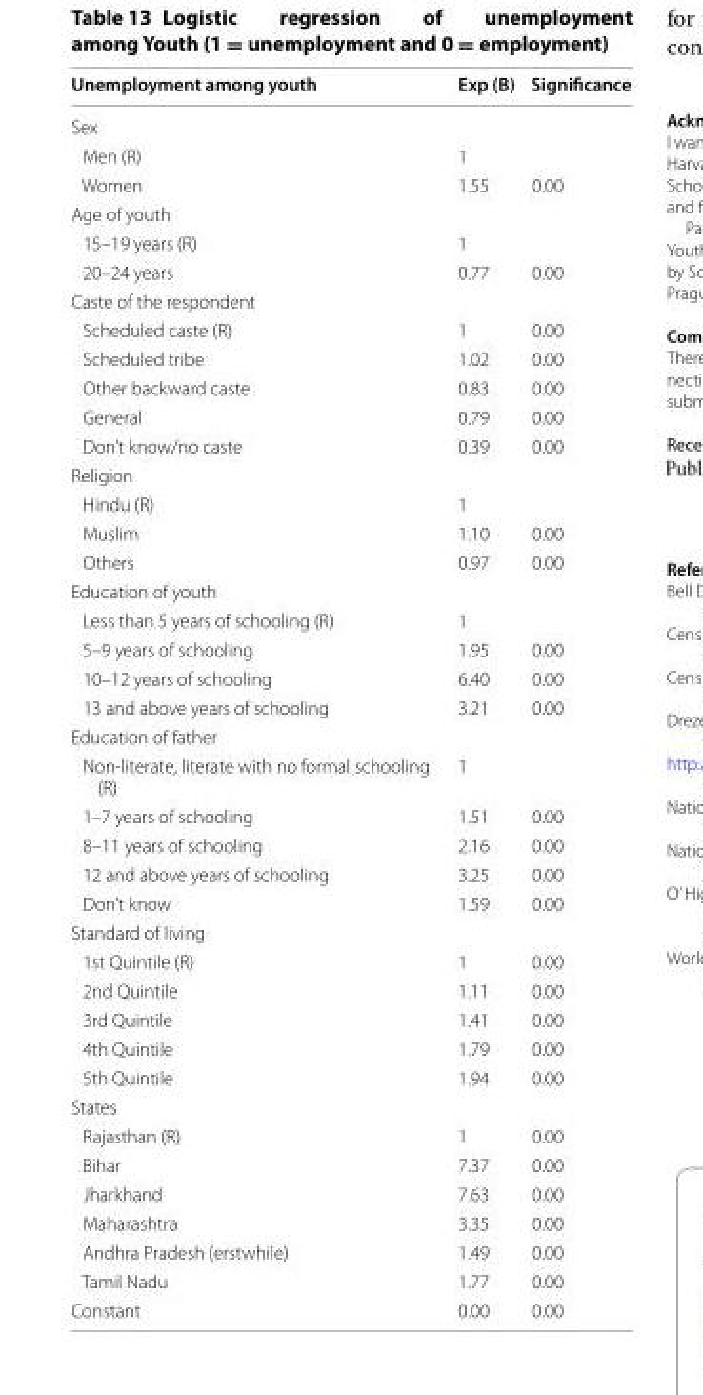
<table><thead><tr><td>Unemployment among youth</td><td>Exp (B)</td><td>Significance</td></tr></thead><tbody><tr><td colspan="3">Sex</td></tr><tr><td>Men (R)</td><td>1</td><td></td></tr><tr><td>Women</td><td>1.55</td><td>0.00</td></tr><tr><td colspan="3">Age of youth</td></tr><tr><td>15–19 years (R)</td><td>1</td><td></td></tr><tr><td>20–24 years</td><td>0.77</td><td>0.00</td></tr><tr><td colspan="3">Caste of the respondent</td></tr><tr><td>Scheduled caste (R)</td><td>1</td><td>0.00</td></tr><tr><td>Scheduled tribe</td><td>1.02</td><td>0.00</td></tr><tr><td>Other backward caste</td><td>0.83</td><td>0.00</td></tr><tr><td>General</td><td>0.79</td><td>0.00</td></tr><tr><td>Don’t know/no caste</td><td>0.39</td><td>0.00</td></tr><tr><td colspan="3">Religion</td></tr><tr><td>Hindu (R)</td><td>1</td><td></td></tr><tr><td>Muslim</td><td>1.10</td><td>0.00</td></tr><tr><td>Others</td><td>0.97</td><td>0.00</td></tr><tr><td colspan="3">Education of youth</td></tr><tr><td>Less than 5 years of schooling (R)</td><td>1</td><td></td></tr><tr><td>5–9 years of schooling</td><td>1.95</td><td>0.00</td></tr><tr><td>10–12 years of schooling</td><td>6.40</td><td>0.00</td></tr><tr><td>13 and above years of schooling</td><td>3.21</td><td>0.00</td></tr><tr><td colspan="3">Education of father</td></tr><tr><td>Non-literate, literate with no formal schooling (R)</td><td>1</td><td></td></tr><tr><td>1–7 years of schooling</td><td>1.51</td><td>0.00</td></tr><tr><td>8–11 years of schooling</td><td>2.16</td><td>0.00</td></tr><tr><td>12 and above years of schooling</td><td>3.25</td><td>0.00</td></tr><tr><td>Don’t know</td><td>1.59</td><td>0.00</td></tr><tr><td colspan="3">Standard of living</td></tr><tr><td>1st Quintile (R)</td><td>1</td><td>0.00</td></tr><tr><td>2nd Quintile</td><td>1.11</td><td>0.00</td></tr><tr><td>3rd Quintile</td><td>1.41</td><td>0.00</td></tr><tr><td>4th Quintile</td><td>1.79</td><td>0.00</td></tr><tr><td>5th Quintile</td><td>1.94</td><td>0.00</td></tr><tr><td colspan="3">States</td></tr><tr><td>Rajasthan (R)</td><td>1</td><td>0.00</td></tr><tr><td>Bihar</td><td>7.37</td><td>0.00</td></tr><tr><td>Jharkhand</td><td>7.63</td><td>0.00</td></tr><tr><td>Maharashtra</td><td>3.35</td><td>0.00</td></tr><tr><td>Andhra Pradesh (erstwhile)</td><td>1.49</td><td>0.00</td></tr><tr><td>Tamil Nadu</td><td>1.77</td><td>0.00</td></tr><tr><td>Constant</td><td>0.00</td><td>0.00</td></tr></tbody></table>